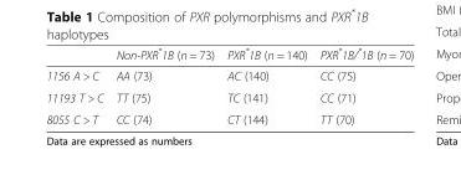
<table><thead><tr><td></td><td>Non-PXR*1B (n = 73)</td><td>PXR*1B (n = 140)</td><td>PXR*1B/*1B (n = 70)</td></tr></thead><tbody><tr><td>1156 A &gt; C</td><td>AA (73)</td><td>AC (140)</td><td>CC (75)</td></tr><tr><td>11193 T &gt; C</td><td>TT (75)</td><td>TC (141)</td><td>CC (71)</td></tr><tr><td>8055 C &gt; T</td><td>CC (74)</td><td>CT (144)</td><td>TT (70)</td></tr></tbody></table>